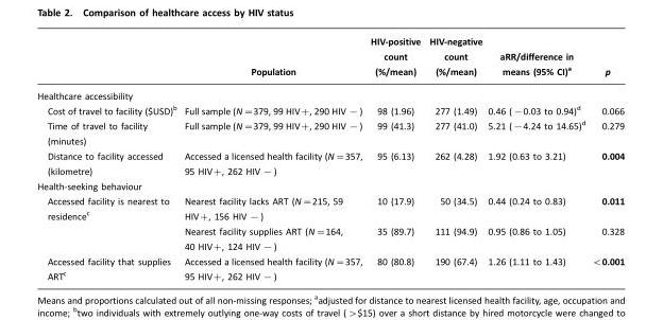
<table><thead><tr><td></td><td>Population</td><td>HIV-positive count (%/mean)</td><td>HIV-negative count (%/mean)</td><td>aRR/difference in means (95% CI)<sup>a</sup></td><td>p</td></tr></thead><tbody><tr><td colspan="6">Healthcare accessibility</td></tr><tr><td>Cost of travel to facility ($USD)<sup>b</sup></td><td>Full sample (N=379, 99 HIV+, 290 HIV −)</td><td>98 (1.96)</td><td>277 (1.49)</td><td>0.46 (−0.03 to 0.94)<sup>d</sup></td><td>0.066</td></tr><tr><td>Time of travel to facility (minutes)</td><td>Full sample (N=379, 99 HIV+, 290 HIV −)</td><td>99 (41.3)</td><td>277 (41.0)</td><td>5.21 (−4.24 to 14.65)<sup>d</sup></td><td>0.279</td></tr><tr><td>Distance to facility accessed (kilometre)</td><td>Accessed a licensed health facility (N=357, 95 HIV+, 262 HIV −)</td><td>95 (6.13)</td><td>262 (4.28)</td><td>1.92 (0.63 to 3.21)</td><td>0.004</td></tr><tr><td colspan="6">Health-seeking behaviour</td></tr><tr><td rowspan="2">Accessed facility is nearest to residence<sup>c</sup></td><td>Nearest facility lacks ART (N=215, 59 HIV+, 156 HIV −)</td><td>10 (17.9)</td><td>50 (34.5)</td><td>0.44 (0.24 to 0.83)</td><td>0.011</td></tr><tr><td>Nearest facility supplies ART (N=164, 40 HIV+, 124 HIV −)</td><td>35 (89.7)</td><td>111 (94.9)</td><td>0.95 (0.86 to 1.05)</td><td>0.328</td></tr><tr><td>Accessed facility that supplies ART<sup>c</sup></td><td>Accessed a licensed health facility (N=357, 95 HIV+, 262 HIV −)</td><td>80 (80.8)</td><td>190 (67.4)</td><td>1.26 (1.11 to 1.43)</td><td>&lt;0.001</td></tr></tbody></table>